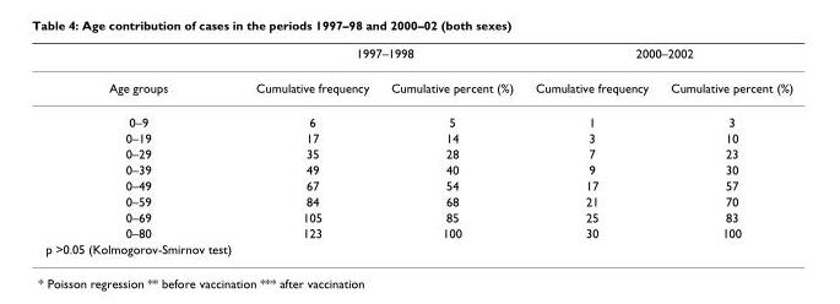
<table><thead><tr><td rowspan="2">Age groups</td><td colspan="2">1997–1998</td><td colspan="2">2000–2002</td></tr><tr><td>Cumulative frequency</td><td>Cumulative percent (%)</td><td>Cumulative frequency</td><td>Cumulative percent (%)</td></tr></thead><tbody><tr><td>0–9</td><td>6</td><td>5</td><td>1</td><td>3</td></tr><tr><td>0–19</td><td>17</td><td>14</td><td>3</td><td>10</td></tr><tr><td>0–29</td><td>35</td><td>28</td><td>7</td><td>23</td></tr><tr><td>0–39</td><td>49</td><td>40</td><td>9</td><td>30</td></tr><tr><td>0–49</td><td>67</td><td>54</td><td>17</td><td>57</td></tr><tr><td>0–59</td><td>84</td><td>68</td><td>21</td><td>70</td></tr><tr><td>0–69</td><td>105</td><td>85</td><td>25</td><td>83</td></tr><tr><td>0–80</td><td>123</td><td>100</td><td>30</td><td>100</td></tr><tr><td>p &gt;0.05 (Kolmogorov-Smirnov test)</td><td></td><td></td><td></td><td></td></tr></tbody></table>